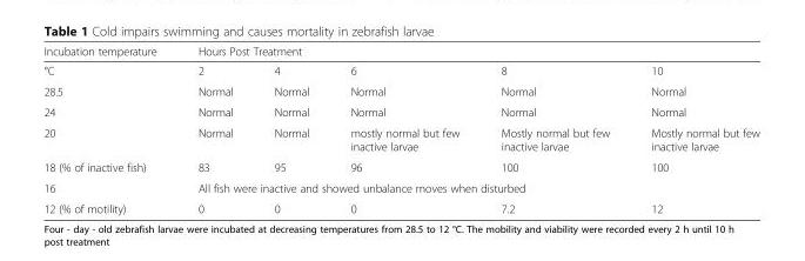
<table><thead><tr><td rowspan="2">Incubation temperature °C</td><td colspan="5">Hours Post Treatment</td></tr><tr><td>2</td><td>4</td><td>6</td><td>8</td><td>10</td></tr></thead><tbody><tr><td>28.5</td><td>Normal</td><td>Normal</td><td>Normal</td><td>Normal</td><td>Normal</td></tr><tr><td>24</td><td>Normal</td><td>Normal</td><td>Normal</td><td>Normal</td><td>Normal</td></tr><tr><td>20</td><td>Normal</td><td>Normal</td><td>mostly normal but few inactive larvae</td><td>Mostly normal but few inactive larvae</td><td>Mostly normal but few inactive larvae</td></tr><tr><td>18 (% of inactive fish)</td><td>83</td><td>95</td><td>96</td><td>100</td><td>100</td></tr><tr><td>16</td><td colspan="5">All fish were inactive and showed unbalance moves when disturbed</td></tr><tr><td>12 (% of motility)</td><td>0</td><td>0</td><td>0</td><td>7.2</td><td>12</td></tr></tbody></table>